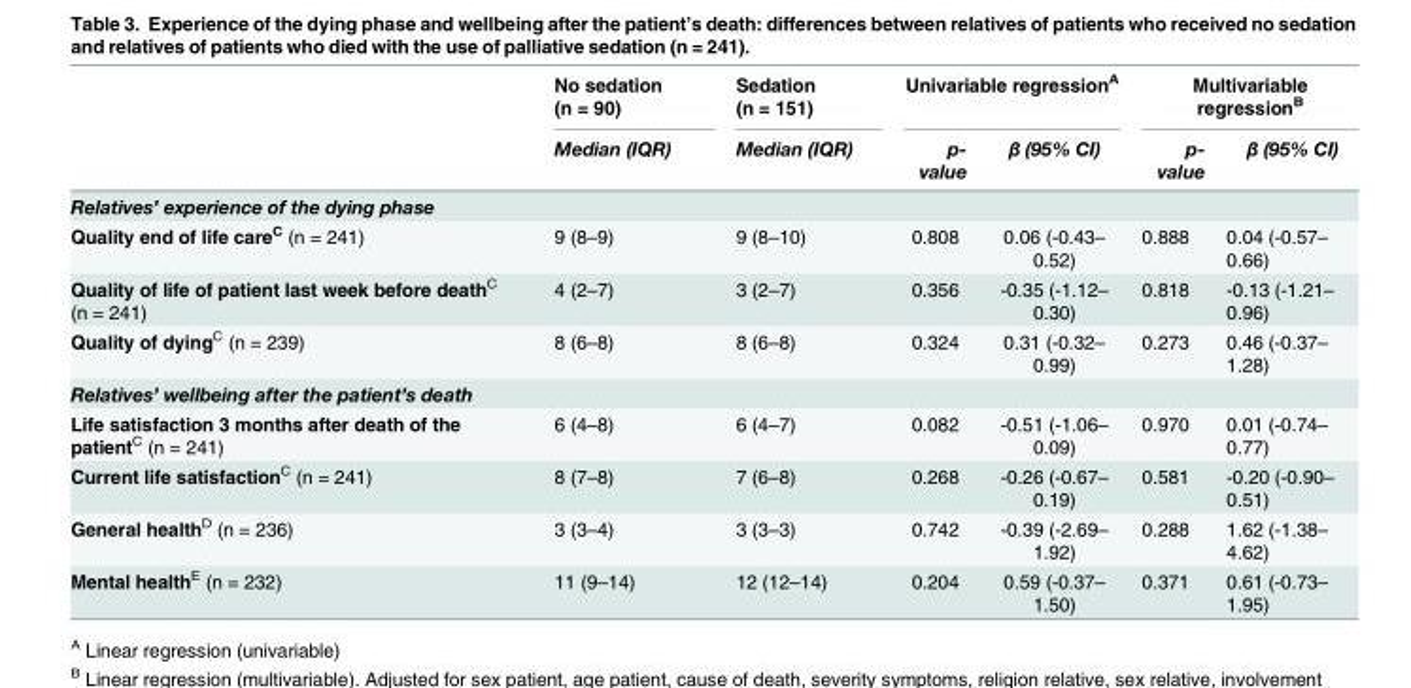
<table><thead><tr><td rowspan="2"></td><td rowspan="2">No sedation (n = 90) Median (IQR)</td><td rowspan="2">Sedation (n = 151) Median (IQR)</td><td colspan="2">Univariable regression<sup>A</sup></td><td colspan="2">Multivariable regression<sup>B</sup></td></tr><tr><td>p- value</td><td>β (95% CI)</td><td>p- value</td><td>β (95% CI)</td></tr></thead><tbody><tr><td colspan="7">Relatives’ experience of the dying phase</td></tr><tr><td>Quality end of life care<sup>C</sup> (n = 241)</td><td>9 (8–9)</td><td>9 (8–10)</td><td>0.808</td><td>0.06 (-0.43– 0.52)</td><td>0.888</td><td>0.04 (-0.57– 0.66)</td></tr><tr><td>Quality of life of patient last week before death<sup>C</sup> (n = 241)</td><td>4 (2–7)</td><td>3 (2–7)</td><td>0.356</td><td>-0.35 (-1.12– 0.30)</td><td>0.818</td><td>-0.13 (-1.21– 0.96)</td></tr><tr><td>Quality of dying<sup>C</sup> (n = 239)</td><td>8 (6–8)</td><td>8 (6–8)</td><td>0.324</td><td>0.31 (-0.32– 0.99)</td><td>0.273</td><td>0.46 (-0.37– 1.28)</td></tr><tr><td colspan="7">Relatives’ wellbeing after the patient’s death</td></tr><tr><td>Life satisfaction 3 months after death of the patient<sup>C</sup> (n = 241)</td><td>6 (4–8)</td><td>6 (4–7)</td><td>0.082</td><td>-0.51 (-1.06– 0.09)</td><td>0.970</td><td>0.01 (-0.74– 0.77)</td></tr><tr><td>Current life satisfaction<sup>C</sup> (n = 241)</td><td>8 (7–8)</td><td>7 (6–8)</td><td>0.268</td><td>-0.26 (-0.67– 0.19)</td><td>0.581</td><td>-0.20 (-0.90– 0.51)</td></tr><tr><td>General health<sup>D</sup> (n = 236)</td><td>3 (3–4)</td><td>3 (3–3)</td><td>0.742</td><td>-0.39 (-2.69– 1.92)</td><td>0.288</td><td>1.62 (-1.38– 4.62)</td></tr><tr><td>Mental health<sup>E</sup> (n = 232)</td><td>11 (9–14)</td><td>12 (12–14)</td><td>0.204</td><td>0.59 (-0.37– 1.50)</td><td>0.371</td><td>0.61 (-0.73– 1.95)</td></tr></tbody></table>